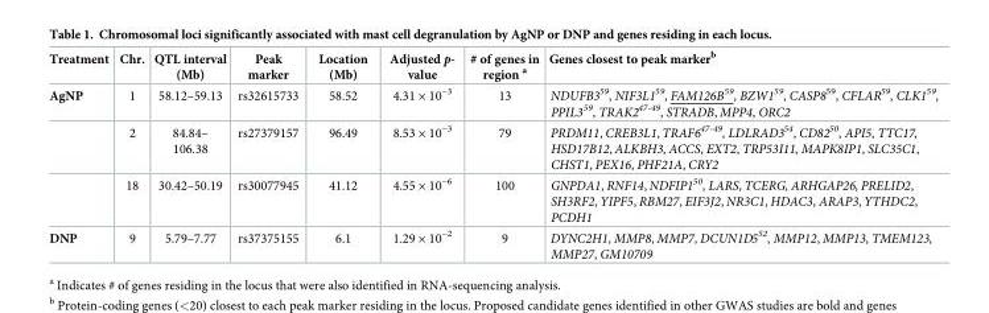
<table><thead><tr><td>Treatment</td><td>Chr.</td><td>QTL interval (Mb)</td><td>Peak marker</td><td>Location (Mb)</td><td>Adjusted p- value</td><td># of genes in region <sup>a</sup></td><td>Genes closest to peak marker<sup>b</sup></td></tr></thead><tbody><tr><td rowspan="3">AgNP</td><td>1</td><td>58.12–59.13</td><td>rs32615733</td><td>58.52</td><td>4.31 × 10<sup>−3</sup></td><td>13</td><td>NDUFB3<sup>59</sup>, NIF3L1<sup>59</sup>, FAM126B<sup>59</sup>, BZW1<sup>59</sup>, CASP8<sup>59</sup>, CFLAR<sup>59</sup>, CLK1<sup>59</sup>, PPIL3<sup>59</sup>, TRAK2<sup>47-49</sup>, STRADB, MPP4, ORC2</td></tr><tr><td>2</td><td>84.84– 106.38</td><td>rs27379157</td><td>96.49</td><td>8.53 × 10<sup>−3</sup></td><td>79</td><td>PRDM11, CREB3L1, TRAF6<sup>47-49</sup>, LDLRAD3<sup>54</sup>, CD82<sup>50</sup>, API5, TTC17, HSD17B12, ALKBH3, ACCS, EXT2, TRP53I11, MAPK8IP1, SLC35C1, CHST1, PEX16, PHF21A, CRY2</td></tr><tr><td>18</td><td>30.42–50.19</td><td>rs30077945</td><td>41.12</td><td>4.55 × 10<sup>−6</sup></td><td>100</td><td>GNPDA1, RNF14, NDFIP1<sup>50</sup>, LARS, TCERG, ARHGAP26, PRELID2, SH3RF2, YIPF5, RBM27, EIF3J2, NR3C1, HDAC3, ARAP3, YTHDC2, PCDH1</td></tr><tr><td>DNP</td><td>9</td><td>5.79–7.77</td><td>rs37375155</td><td>6.1</td><td>1.29 × 10<sup>−2</sup></td><td>9</td><td>DYNC2H1, MMP8, MMP7, DCUN1D5<sup>52</sup>, MMP12, MMP13, TMEM123, MMP27, GM10709</td></tr></tbody></table>